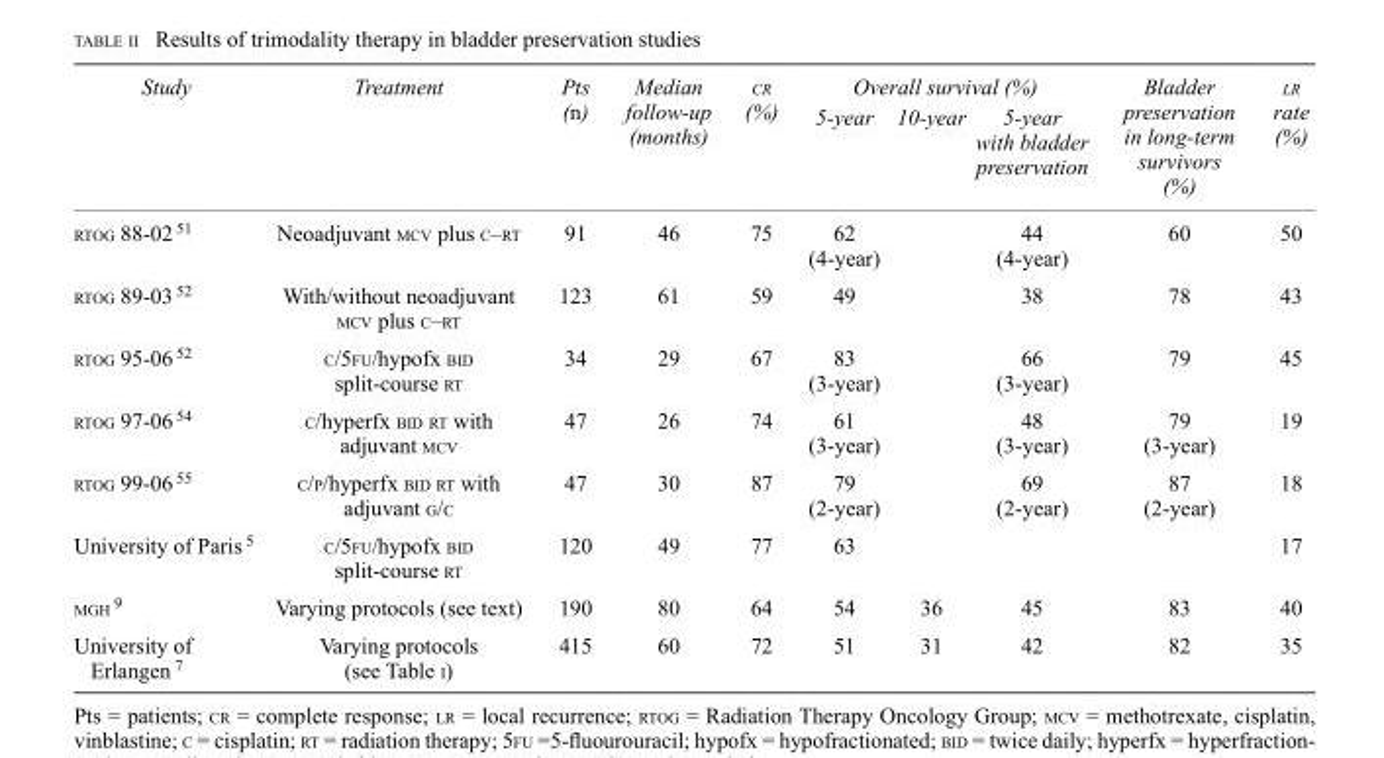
<table><thead><tr><td rowspan="2">Study</td><td rowspan="2">Treatment</td><td rowspan="2">Pts (n)</td><td rowspan="2">Median follow-up (months)</td><td rowspan="2">Cr (%)</td><td colspan="3">Overall survival (%)</td><td rowspan="2">Bladder preservation in long-term survivors (%)</td><td rowspan="2">lr rate (%)</td></tr><tr><td>5-year</td><td>10-year</td><td>5-year with bladder preservation</td></tr></thead><tbody><tr><td>rtog 88-02 51</td><td>Neoadjuvant mcv plus c–rt</td><td>91</td><td>46</td><td>75</td><td>62 (4-year)</td><td></td><td>44 (4-year)</td><td>60</td><td>50</td></tr><tr><td>rtog 89-03 52</td><td>With/without neoadjuvant mcv plus c–rt</td><td>123</td><td>61</td><td>59</td><td>49</td><td></td><td>38</td><td>78</td><td>43</td></tr><tr><td>rtog 95-06 52</td><td>c/5fu/hypofx bid split-course rt</td><td>34</td><td>29</td><td>67</td><td>83 (3-year)</td><td></td><td>66 (3-year)</td><td>79</td><td>45</td></tr><tr><td>rtog 97-06 54</td><td>c/hyperfx bid rt with adjuvant mcv</td><td>47</td><td>26</td><td>74</td><td>61 (3-year)</td><td></td><td>48 (3-year)</td><td>79 (3-year)</td><td>19</td></tr><tr><td>rtog 99-06 55</td><td>c/p/hyperfx bid rt with adjuvant g/c</td><td>47</td><td>30</td><td>87</td><td>79 (2-year)</td><td></td><td>69 (2-year)</td><td>87 (2-year)</td><td>18</td></tr><tr><td>University of Paris 5</td><td>c/5fu/hypofx bid split-course rt</td><td>120</td><td>49</td><td>77</td><td>63</td><td></td><td></td><td></td><td>17</td></tr><tr><td>mgh <sup>9</sup></td><td>Varying protocols (see text)</td><td>190</td><td>80</td><td>64</td><td>54</td><td>36</td><td>45</td><td>83</td><td>40</td></tr><tr><td>University of Erlangen 7</td><td>Varying protocols (see Table i)</td><td>415</td><td>60</td><td>72</td><td>51</td><td>31</td><td>42</td><td>82</td><td>35</td></tr></tbody></table>